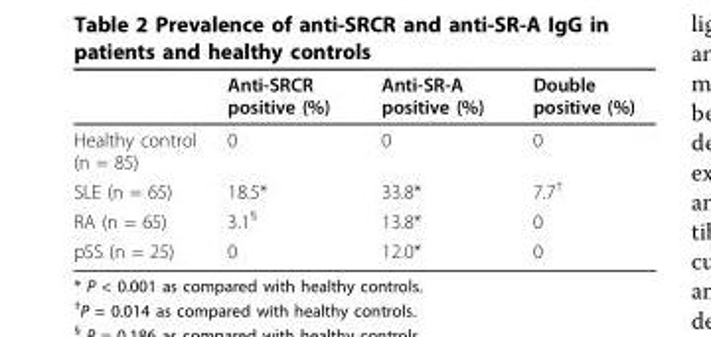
<table><thead><tr><td></td><td>Anti-SRCR positive (%)</td><td>Anti-SR-A positive (%)</td><td>Double positive (%)</td></tr></thead><tbody><tr><td>Healthy control (n = 85)</td><td>0</td><td>0</td><td>0</td></tr><tr><td>SLE (n = 65)</td><td>18.5*</td><td>33.8*</td><td>7.7<sup>†</sup></td></tr><tr><td>RA (n = 65)</td><td>3.1<sup>§</sup></td><td>13.8*</td><td>0</td></tr><tr><td>pSS (n = 25)</td><td>0</td><td>12.0*</td><td>0</td></tr></tbody></table>